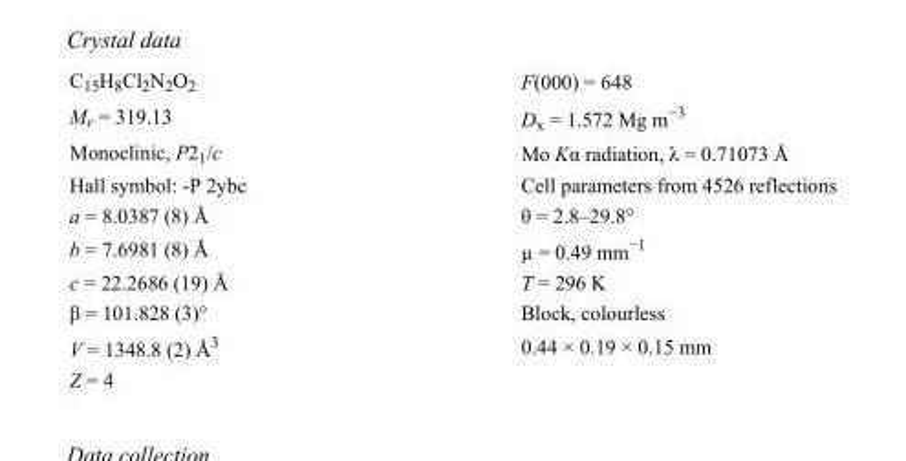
<table><tbody><tr><td>C<sub>15</sub>H<sub>8</sub>Cl<sub>2</sub>N<sub>2</sub>O<sub>2</sub></td><td>F(000) = 648</td></tr><tr><td>M<sub>r</sub> = 319.13</td><td>D<sub>x</sub> = 1.572 Mg m<sup>−3</sup></td></tr><tr><td>Monoclinic, P2<sub>1</sub>/c</td><td>Mo Kα radiation, λ = 0.71073 Å</td></tr><tr><td>Hall symbol: -P 2ybc</td><td>Cell parameters from 4526 reflections</td></tr><tr><td>a = 8.0387 (8) Å</td><td>θ = 2.8–29.8°</td></tr><tr><td>b = 7.6981 (8) Å</td><td>µ = 0.49 mm<sup>−1</sup></td></tr><tr><td>c = 22.2686 (19) Å</td><td>T = 296 K</td></tr><tr><td>β = 101.828 (3)°</td><td>Block, colourless</td></tr><tr><td>V = 1348.8 (2) Å<sup>3</sup></td><td>0.44 × 0.19 × 0.15 mm</td></tr><tr><td>Z = 4</td><td></td></tr></tbody></table>